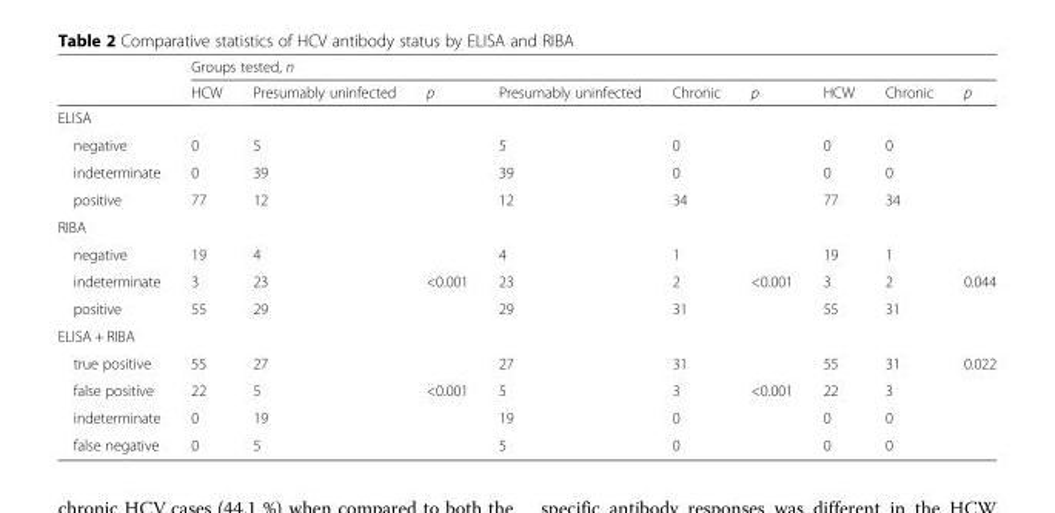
<table><thead><tr><td rowspan="2"></td><td colspan="9">Groups tested, n</td></tr><tr><td>HCW</td><td>Presumably uninfected</td><td>p</td><td>Presumably uninfected</td><td>Chronic</td><td>p</td><td>HCW</td><td>Chronic</td><td>p</td></tr></thead><tbody><tr><td colspan="10">ELISA</td></tr><tr><td>negative</td><td>0</td><td>5</td><td></td><td>5</td><td>0</td><td></td><td>0</td><td>0</td><td></td></tr><tr><td>indeterminate</td><td>0</td><td>39</td><td></td><td>39</td><td>0</td><td></td><td>0</td><td>0</td><td></td></tr><tr><td>positive</td><td>77</td><td>12</td><td></td><td>12</td><td>34</td><td></td><td>77</td><td>34</td><td></td></tr><tr><td colspan="10">RIBA</td></tr><tr><td>negative</td><td>19</td><td>4</td><td></td><td>4</td><td>1</td><td></td><td>19</td><td>1</td><td></td></tr><tr><td>indeterminate</td><td>3</td><td>23</td><td>&lt;0.001</td><td>23</td><td>2</td><td>&lt;0.001</td><td>3</td><td>2</td><td>0.044</td></tr><tr><td>positive</td><td>55</td><td>29</td><td></td><td>29</td><td>31</td><td></td><td>55</td><td>31</td><td></td></tr><tr><td colspan="10">ELISA + RIBA</td></tr><tr><td>true positive</td><td>55</td><td>27</td><td></td><td>27</td><td>31</td><td></td><td>55</td><td>31</td><td rowspan="2">0.022</td></tr><tr><td>false positive</td><td>22</td><td>5</td><td>&lt;0.001</td><td>5</td><td>3</td><td>&lt;0.001</td><td>22</td><td>3</td></tr><tr><td>indeterminate</td><td>0</td><td>19</td><td></td><td>19</td><td>0</td><td></td><td>0</td><td>0</td><td></td></tr><tr><td>false negative</td><td>0</td><td>5</td><td></td><td>5</td><td>0</td><td></td><td>0</td><td>0</td><td></td></tr></tbody></table>